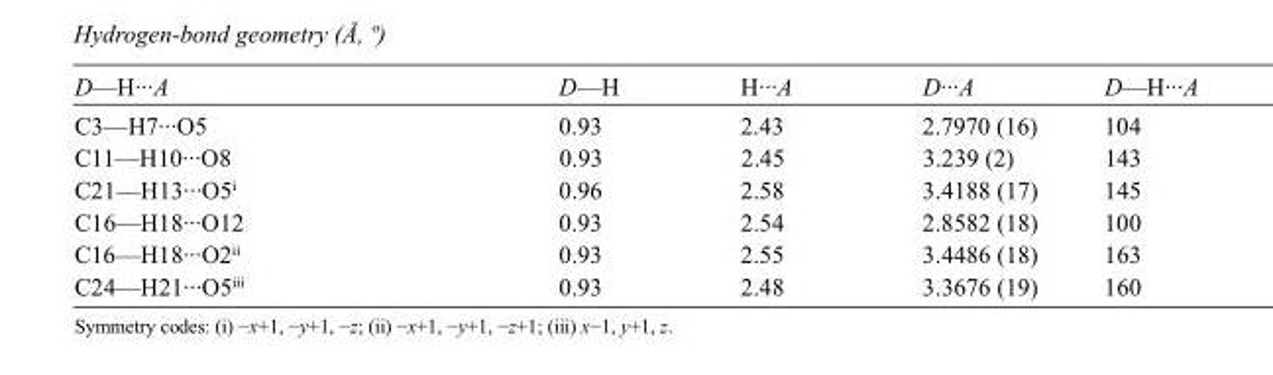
<table><tbody><tr><td>D—H···A</td><td>D—H</td><td>H···A</td><td>D···A</td><td>D—H···A</td></tr><tr><td>C3—H7···O5</td><td>0.93</td><td>2.43</td><td>2.7970 (16)</td><td>104</td></tr><tr><td>C11—H10···O8</td><td>0.93</td><td>2.45</td><td>3.239 (2)</td><td>143</td></tr><tr><td>C21—H13···O5<sup>i</sup></td><td>0.96</td><td>2.58</td><td>3.4188 (17)</td><td>145</td></tr><tr><td>C16—H18···O12</td><td>0.93</td><td>2.54</td><td>2.8582 (18)</td><td>100</td></tr><tr><td>C16—H18···O2<sup>ii</sup></td><td>0.93</td><td>2.55</td><td>3.4486 (18)</td><td>163</td></tr><tr><td>C24—H21···O5<sup>iii</sup></td><td>0.93</td><td>2.48</td><td>3.3676 (19)</td><td>160</td></tr></tbody></table>